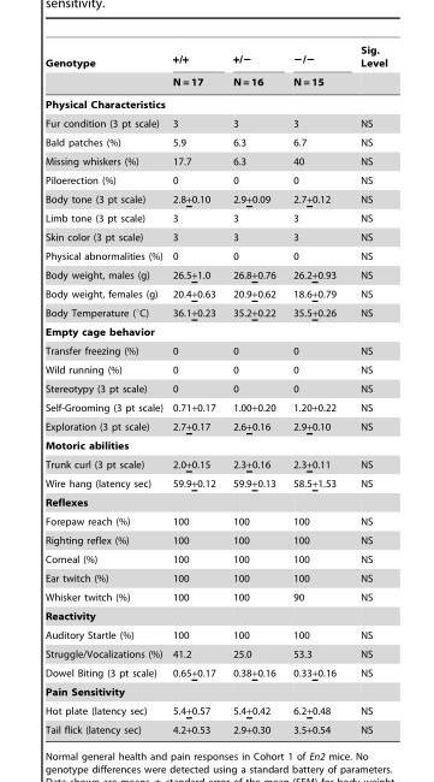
<table><thead><tr><td rowspan="2">Genotype</td><td rowspan="2">+/+ N = 17</td><td rowspan="2">+/− N = 16</td><td rowspan="2">−/− N = 15</td><td rowspan="2">Sig. Level</td></tr><tr></tr></thead><tbody><tr><td colspan="5">Physical Characteristics</td></tr><tr><td>Fur condition (3 pt scale)</td><td>3</td><td>3</td><td>3</td><td>NS</td></tr><tr><td>Bald patches (%)</td><td>5.9</td><td>6.3</td><td>6.7</td><td>NS</td></tr><tr><td>Missing whiskers (%)</td><td>17.7</td><td>6.3</td><td>40</td><td>NS</td></tr><tr><td>Piloerection (%)</td><td>0</td><td>0</td><td>0</td><td>NS</td></tr><tr><td>Body tone (3 pt scale)</td><td>2.8+0.10</td><td>2.9+0.09</td><td>2.7+0.12</td><td>NS</td></tr><tr><td>Limb tone (3 pt scale)</td><td>3</td><td>3</td><td>3</td><td>NS</td></tr><tr><td>Skin color (3 pt scale)</td><td>3</td><td>3</td><td>3</td><td>NS</td></tr><tr><td>Physical abnormalities (%)</td><td>0</td><td>0</td><td>0</td><td>NS</td></tr><tr><td>Body weight, males (g)</td><td>26.5+1.0</td><td>26.8+0.76</td><td>26.2+0.93</td><td>NS</td></tr><tr><td>Body weight, females (g)</td><td>20.4+0.63</td><td>20.9+0.62</td><td>18.6+0.79</td><td>NS</td></tr><tr><td>Body Temperature (°C)</td><td>36.1+0.23</td><td>35.2+0.22</td><td>35.5+0.26</td><td>NS</td></tr><tr><td colspan="5">Empty cage behavior</td></tr><tr><td>Transfer freezing (%)</td><td>0</td><td>0</td><td>0</td><td>NS</td></tr><tr><td>Wild running (%)</td><td>0</td><td>0</td><td>0</td><td>NS</td></tr><tr><td>Stereotypy (3 pt scale)</td><td>0</td><td>0</td><td>0</td><td>NS</td></tr><tr><td>Self-Grooming (3 pt scale)</td><td>0.71+0.17</td><td>1.00+0.20</td><td>1.20+0.22</td><td>NS</td></tr><tr><td>Exploration (3 pt scale)</td><td>2.7+0.17</td><td>2.6+0.16</td><td>2.9+0.10</td><td>NS</td></tr><tr><td colspan="5">Motoric abilities</td></tr><tr><td>Trunk curl (3 pt scale)</td><td>2.0+0.15</td><td>2.3+0.16</td><td>2.3+0.11</td><td>NS</td></tr><tr><td>Wire hang (latency sec)</td><td>59.9+0.12</td><td>59.9+0.13</td><td>58.5+1.53</td><td>NS</td></tr><tr><td colspan="5">Reflexes</td></tr><tr><td>Forepaw reach (%)</td><td>100</td><td>100</td><td>100</td><td>NS</td></tr><tr><td>Righting reflex (%)</td><td>100</td><td>100</td><td>100</td><td>NS</td></tr><tr><td>Corneal (%)</td><td>100</td><td>100</td><td>100</td><td>NS</td></tr><tr><td>Ear twitch (%)</td><td>100</td><td>100</td><td>100</td><td>NS</td></tr><tr><td>Whisker twitch (%)</td><td>100</td><td>100</td><td>90</td><td>NS</td></tr><tr><td colspan="5">Reactivity</td></tr><tr><td>Auditory Startle (%)</td><td>100</td><td>100</td><td>100</td><td>NS</td></tr><tr><td>Struggle/Vocalizations (%)</td><td>41.2</td><td>25.0</td><td>53.3</td><td>NS</td></tr><tr><td>Dowel Biting (3 pt scale)</td><td>0.65+0.17</td><td>0.38+0.16</td><td>0.33+0.16</td><td>NS</td></tr><tr><td colspan="5">Pain Sensitivity</td></tr><tr><td>Hot plate (latency sec)</td><td>5.4+0.57</td><td>5.4+0.42</td><td>6.2+0.48</td><td>NS</td></tr><tr><td>Tail flick (latency sec)</td><td>4.2+0.53</td><td>2.9+0.30</td><td>3.5+0.54</td><td>NS</td></tr></tbody></table>